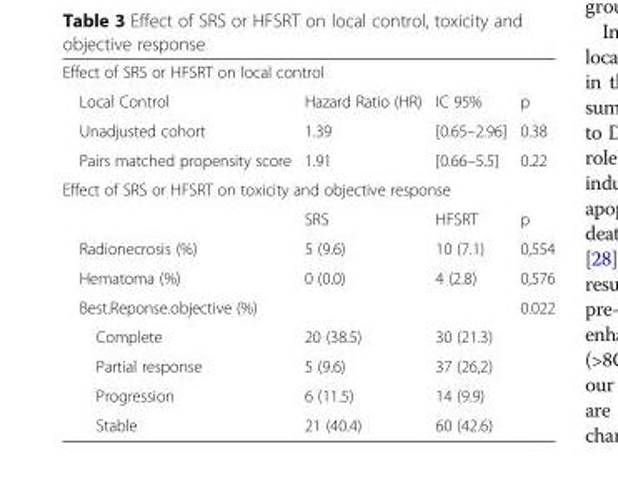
<table><tbody><tr><td colspan="4">Effect of SRS or HFSRT on local control</td></tr><tr><td>Local Control</td><td>Hazard Ratio (HR)</td><td>IC 95%</td><td>p</td></tr><tr><td>Unadjusted cohort</td><td>1.39</td><td>[0.65–2.96]</td><td>0.38</td></tr><tr><td>Pairs matched propensity score</td><td>1.91</td><td>[0.66–5.5]</td><td>0.22</td></tr><tr><td colspan="4">Effect of SRS or HFSRT on toxicity and objective response</td></tr><tr><td></td><td>SRS</td><td>HFSRT</td><td>p</td></tr><tr><td>Radionecrosis (%)</td><td>5 (9.6)</td><td>10 (7.1)</td><td>0,554</td></tr><tr><td>Hematoma (%)</td><td>0 (0.0)</td><td>4 (2.8)</td><td>0,576</td></tr><tr><td>Best.Reponse.objective (%)</td><td></td><td></td><td>0.022</td></tr><tr><td>Complete</td><td>20 (38.5)</td><td>30 (21.3)</td><td></td></tr><tr><td>Partial response</td><td>5 (9.6)</td><td>37 (26,2)</td><td></td></tr><tr><td>Progression</td><td>6 (11.5)</td><td>14 (9.9)</td><td></td></tr><tr><td>Stable</td><td>21 (40.4)</td><td>60 (42.6)</td><td></td></tr></tbody></table>